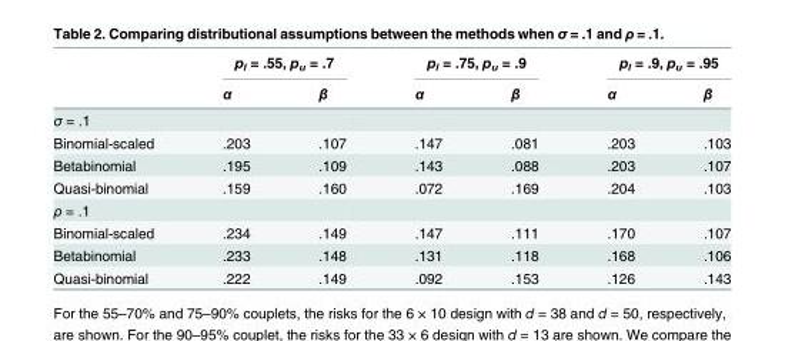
<table><thead><tr><td rowspan="2"></td><td colspan="2">p<sub>l</sub> = .55, p<sub>u</sub> = .7</td><td colspan="2">p<sub>l</sub> = .75, p<sub>u</sub> = .9</td><td colspan="2">p<sub>l</sub> = .9, p<sub>u</sub> = .95</td></tr><tr><td>α</td><td>β</td><td>α</td><td>β</td><td>α</td><td>β</td></tr></thead><tbody><tr><td colspan="7">σ = .1</td></tr><tr><td>Binomial-scaled</td><td>.203</td><td>.107</td><td>.147</td><td>.081</td><td>.203</td><td>.103</td></tr><tr><td>Betabinomial</td><td>.195</td><td>.109</td><td>.143</td><td>.088</td><td>.203</td><td>.107</td></tr><tr><td>Quasi-binomial</td><td>.159</td><td>.160</td><td>.072</td><td>.169</td><td>.204</td><td>.103</td></tr><tr><td colspan="7">ρ = .1</td></tr><tr><td>Binomial-scaled</td><td>.234</td><td>.149</td><td>.147</td><td>.111</td><td>.170</td><td>.107</td></tr><tr><td>Betabinomial</td><td>.233</td><td>.148</td><td>.131</td><td>.118</td><td>.168</td><td>.106</td></tr><tr><td>Quasi-binomial</td><td>.222</td><td>.149</td><td>.092</td><td>.153</td><td>.126</td><td>.143</td></tr></tbody></table>